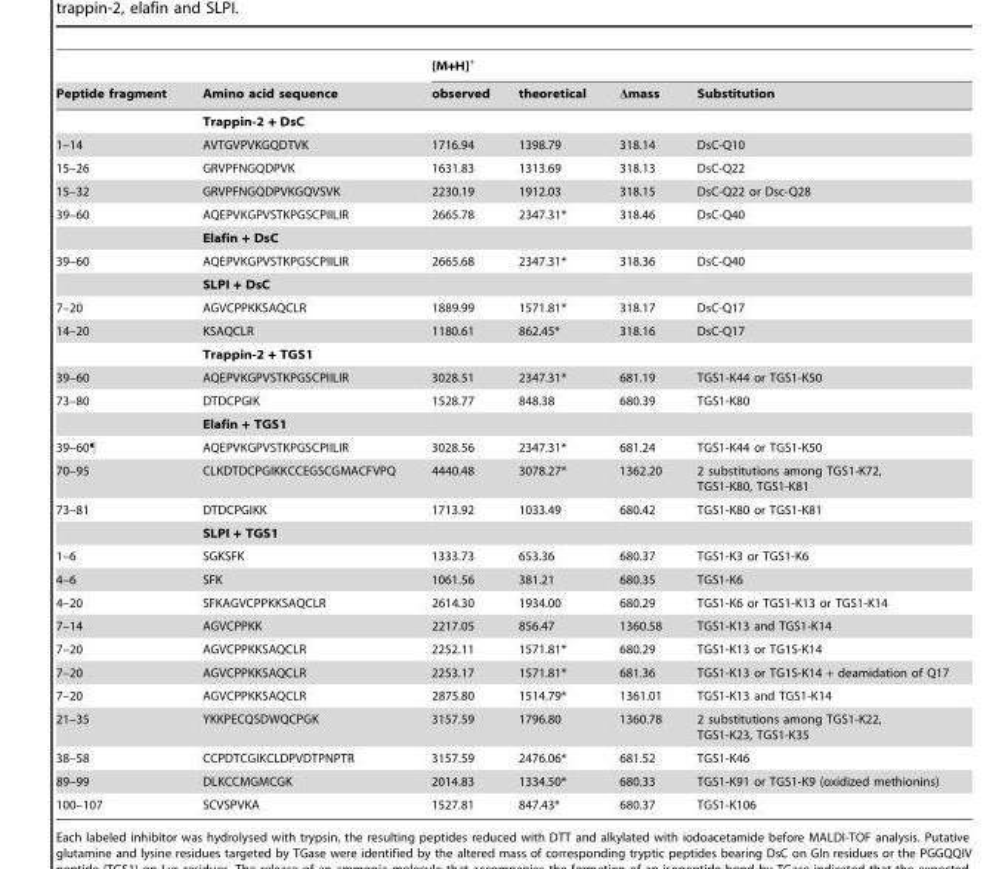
<table><thead><tr><td rowspan="2">Peptide fragment</td><td rowspan="2">Amino acid sequence</td><td colspan="4">[M+H]<sup>+</sup></td></tr><tr><td>observed</td><td>theoretical</td><td>Δmass</td><td>Substitution</td></tr></thead><tbody><tr><td></td><td>Trappin-2 + DsC</td><td></td><td></td><td></td><td></td></tr><tr><td>1–14</td><td>AVTGVPVKGQDTVK</td><td>1716.94</td><td>1398.79</td><td>318.14</td><td>DsC-Q10</td></tr><tr><td>15–26</td><td>GRVPFNGQDPVK</td><td>1631.83</td><td>1313.69</td><td>318.13</td><td>DsC-Q22</td></tr><tr><td>15–32</td><td>GRVPFNGQDPVKGQVSVK</td><td>2230.19</td><td>1912.03</td><td>318.15</td><td>DsC-Q22 or Dsc-Q28</td></tr><tr><td rowspan="2">39–60</td><td>AQEPVKGPVSTKPGSCPIILIR</td><td>2665.78</td><td>2347.31*</td><td>318.46</td><td>DsC-Q40</td></tr><tr><td>Elafin + DsC</td><td></td><td></td><td></td><td></td></tr><tr><td rowspan="2">39–60</td><td>AQEPVKGPVSTKPGSCPIILIR</td><td>2665.68</td><td>2347.31*</td><td>318.36</td><td>DsC-Q40</td></tr><tr><td>SLPI + DsC</td><td></td><td></td><td></td><td></td></tr><tr><td>7–20</td><td>AGVCPPKKSAQCLR</td><td>1889.99</td><td>1571.81*</td><td>318.17</td><td>DsC-Q17</td></tr><tr><td rowspan="2">14–20</td><td>KSAQCLR</td><td>1180.61</td><td>862.45*</td><td>318.16</td><td>DsC-Q17</td></tr><tr><td>Trappin-2 + TGS1</td><td></td><td></td><td></td><td></td></tr><tr><td>39–60</td><td>AQEPVKGPVSTKPGSCPIILIR</td><td>3028.51</td><td>2347.31*</td><td>681.19</td><td>TGS1-K44 or TGS1-K50</td></tr><tr><td rowspan="2">73–80</td><td>DTDCPGIK</td><td>1528.77</td><td>848.38</td><td>680.39</td><td>TGS1-K80</td></tr><tr><td>Elafin + TGS1</td><td></td><td></td><td></td><td></td></tr><tr><td>39–60¶</td><td>AQEPVKGPVSTKPGSCPIILIR</td><td>3028.56</td><td>2347.31*</td><td>681.24</td><td>TGS1-K44 or TGS1-K50</td></tr><tr><td>70–95</td><td>CLKDTDCPGIKKCCEGSCGMACFVPQ</td><td>4440.48</td><td>3078.27*</td><td>1362.20</td><td>2 substitutions among TGS1-K72, TGS1-K80, TGS1-K81</td></tr><tr><td rowspan="2">73–81</td><td>DTDCPGIKK</td><td>1713.92</td><td>1033.49</td><td>680.42</td><td>TGS1-K80 or TGS1-K81</td></tr><tr><td>SLPI + TGS1</td><td></td><td></td><td></td><td></td></tr><tr><td>1–6</td><td>SGKSFK</td><td>1333.73</td><td>653.36</td><td>680.37</td><td>TGS1-K3 or TGS1-K6</td></tr><tr><td>4–6</td><td>SFK</td><td>1061.56</td><td>381.21</td><td>680.35</td><td>TGS1-K6</td></tr><tr><td>4–20</td><td>SFKAGVCPPKKSAQCLR</td><td>2614.30</td><td>1934.00</td><td>680.29</td><td>TGS1-K6 or TGS1-K13 or TGS1-K14</td></tr><tr><td>7–14</td><td>AGVCPPKK</td><td>2217.05</td><td>856.47</td><td>1360.58</td><td>TGS1-K13 and TGS1-K14</td></tr><tr><td>7–20</td><td>AGVCPPKKSAQCLR</td><td>2252.11</td><td>1571.81*</td><td>680.29</td><td>TGS1-K13 or TG1S-K14</td></tr><tr><td>7–20</td><td>AGVCPPKKSAQCLR</td><td>2253.17</td><td>1571.81*</td><td>681.36</td><td>TGS1-K13 or TG1S-K14 + deamidation of Q17</td></tr><tr><td>7–20</td><td>AGVCPPKKSAQCLR</td><td>2875.80</td><td>1514.79*</td><td>1361.01</td><td>TGS1-K13 and TGS1-K14</td></tr><tr><td>21–35</td><td>YKKPECQSDWQCPGK</td><td>3157.59</td><td>1796.80</td><td>1360.78</td><td>2 substitutions among TGS1-K22, TGS1-K23, TGS1-K35</td></tr><tr><td>38–58</td><td>CCPDTCGIKCLDPVDTPNPTR</td><td>3157.59</td><td>2476.06*</td><td>681.52</td><td>TGS1-K46</td></tr><tr><td>89–99</td><td>DLKCCMGMCGK</td><td>2014.83</td><td>1334.50*</td><td>680.33</td><td>TGS1-K91 or TGS1-K9 (oxidized methionins)</td></tr><tr><td>100–107</td><td>SCVSPVKA</td><td>1527.81</td><td>847.43*</td><td>680.37</td><td>TGS1-K106</td></tr></tbody></table>